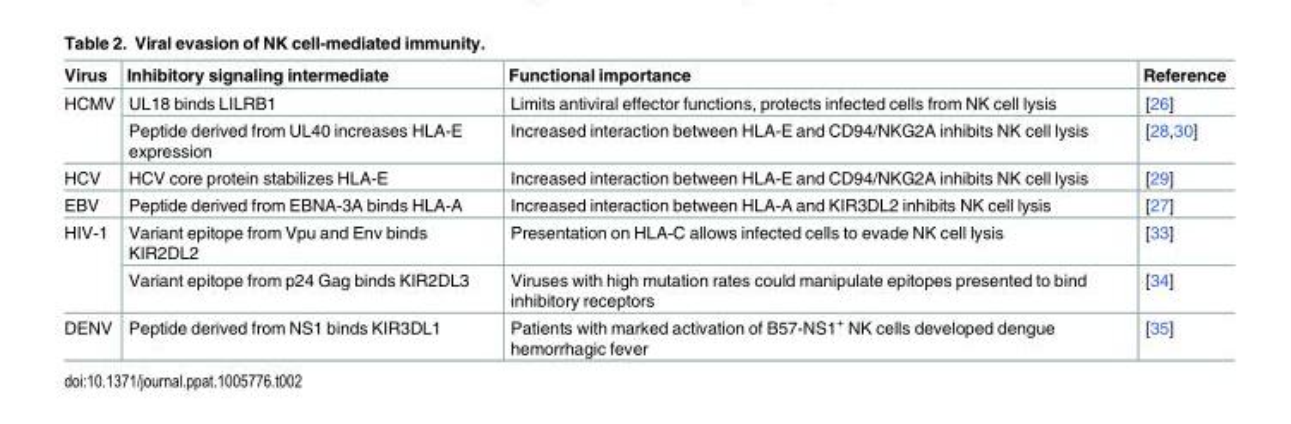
<table><thead><tr><td>Virus</td><td>Inhibitory signaling intermediate</td><td>Functional importance</td><td>Reference</td></tr></thead><tbody><tr><td rowspan="2">HCMV</td><td>UL18 binds LILRB1</td><td>Limits antiviral effector functions, protects infected cells from NK cell lysis</td><td>[26]</td></tr><tr><td>Peptide derived from UL40 increases HLA-E expression</td><td>Increased interaction between HLA-E and CD94/NKG2A inhibits NK cell lysis</td><td>[28,30]</td></tr><tr><td>HCV</td><td>HCV core protein stabilizes HLA-E</td><td>Increased interaction between HLA-E and CD94/NKG2A inhibits NK cell lysis</td><td>[29]</td></tr><tr><td>EBV</td><td>Peptide derived from EBNA-3A binds HLA-A</td><td>Increased interaction between HLA-A and KIR3DL2 inhibits NK cell lysis</td><td>[27]</td></tr><tr><td rowspan="2">HIV-1</td><td>Variant epitope from Vpu and Env binds KIR2DL2</td><td>Presentation on HLA-C allows infected cells to evade NK cell lysis</td><td>[33]</td></tr><tr><td>Variant epitope from p24 Gag binds KIR2DL3</td><td>Viruses with high mutation rates could manipulate epitopes presented to bind inhibitory receptors</td><td>[34]</td></tr><tr><td>DENV</td><td>Peptide derived from NS1 binds KIR3DL1</td><td>Patients with marked activation of B57-NS1<sup>+</sup> NK cells developed dengue hemorrhagic fever</td><td>[35]</td></tr></tbody></table>